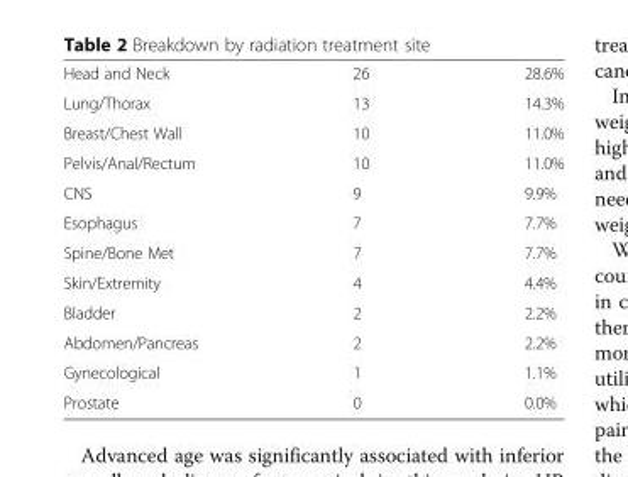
<table><tbody><tr><td>Head and Neck</td><td>26</td><td>28.6%</td></tr><tr><td>Lung/Thorax</td><td>13</td><td>14.3%</td></tr><tr><td>Breast/Chest Wall</td><td>10</td><td>11.0%</td></tr><tr><td>Pelvis/Anal/Rectum</td><td>10</td><td>11.0%</td></tr><tr><td>CNS</td><td>9</td><td>9.9%</td></tr><tr><td>Esophagus</td><td>7</td><td>7.7%</td></tr><tr><td>Spine/Bone Met</td><td>7</td><td>7.7%</td></tr><tr><td>Skin/Extremity</td><td>4</td><td>4.4%</td></tr><tr><td>Bladder</td><td>2</td><td>2.2%</td></tr><tr><td>Abdomen/Pancreas</td><td>2</td><td>2.2%</td></tr><tr><td>Gynecological</td><td>1</td><td>1.1%</td></tr><tr><td>Prostate</td><td>0</td><td>0.0%</td></tr></tbody></table>